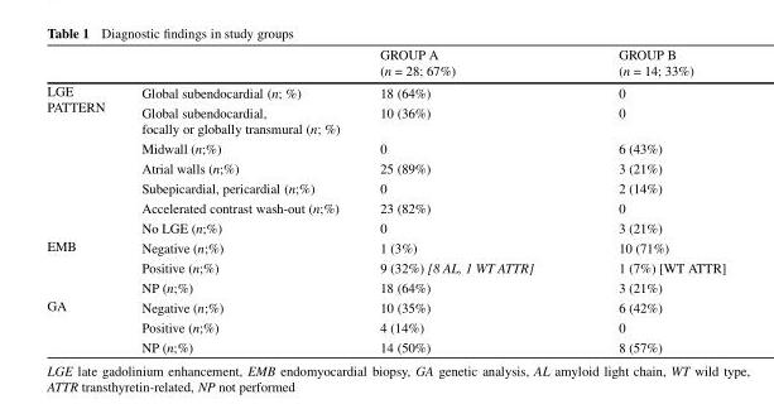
<table><thead><tr><td></td><td></td><td>GROUP A (n = 28; 67%)</td><td>GROUP B (n = 14; 33%)</td></tr></thead><tbody><tr><td rowspan="7">LGE PATTERN</td><td>Global subendocardial (n; %)</td><td>18 (64%)</td><td>0</td></tr><tr><td>Global subendocardial, focally or globally transmural (n; %)</td><td>10 (36%)</td><td>0</td></tr><tr><td>Midwall (n;%)</td><td>0</td><td>6 (43%)</td></tr><tr><td>Atrial walls (n;%)</td><td>25 (89%)</td><td>3 (21%)</td></tr><tr><td>Subepicardial, pericardial (n;%)</td><td>0</td><td>2 (14%)</td></tr><tr><td>Accelerated contrast wash-out (n;%)</td><td>23 (82%)</td><td>0</td></tr><tr><td>No LGE (n;%)</td><td>0</td><td>3 (21%)</td></tr><tr><td rowspan="3">EMB</td><td>Negative (n;%)</td><td>1 (3%)</td><td>10 (71%)</td></tr><tr><td>Positive (n;%)</td><td>9 (32%) [8 AL, 1 WT ATTR]</td><td>1 (7%) [WT ATTR]</td></tr><tr><td>NP (n;%)</td><td>18 (64%)</td><td>3 (21%)</td></tr><tr><td rowspan="3">GA</td><td>Negative (n;%)</td><td>10 (35%)</td><td>6 (42%)</td></tr><tr><td>Positive (n;%)</td><td>4 (14%)</td><td>0</td></tr><tr><td>NP (n;%)</td><td>14 (50%)</td><td>8 (57%)</td></tr></tbody></table>